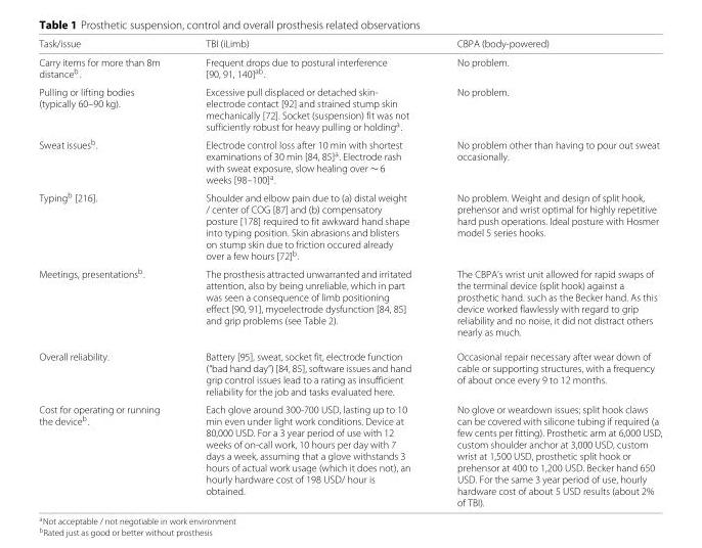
<table><thead><tr><td>Task/issue</td><td>TBI (iLimb)</td><td>CBPA (body-powered)</td></tr></thead><tbody><tr><td>Carry items for more than 8m distance<sup>b</sup>.</td><td>Frequent drops due to postural interference [90, 91, 140]<sup>ab</sup>.</td><td>No problem.</td></tr><tr><td>Pulling or lifting bodies (typically 60–90 kg).</td><td>Excessive pull displaced or detached skin- electrode contact [92] and strained stump skin mechanically [72]. Socket (suspension) fit was not sufficiently robust for heavy pulling or holding<sup>a</sup>.</td><td>No problem.</td></tr><tr><td>Sweat issues<sup>b</sup>.</td><td>Electrode control loss after 10 min with shortest examinations of 30 min [84, 85]<sup>a</sup>. Electrode rash with sweat exposure, slow healing over ∼ 6 weeks [98–100]<sup>a</sup>.</td><td>No problem other than having to pour out sweat occasionally.</td></tr><tr><td>Typing<sup>b</sup> [216].</td><td>Shoulder and elbow pain due to (a) distal weight / center of COG [87] and (b) compensatory posture [178] required to fit awkward hand shape into typing position. Skin abrasions and blisters on stump skin due to friction occured already over a few hours [72]<sup>b</sup>.</td><td>No problem. Weight and design of split hook, prehensor and wrist optimal for highly repetitive hard push operations. Ideal posture with Hosmer model 5 series hooks.</td></tr><tr><td>Meetings, presentations<sup>b</sup>.</td><td>The prosthesis attracted unwarranted and irritated attention, also by being unreliable, which in part was seen a consequence of limb positioning effect [90, 91], myoelectrode dysfunction [84, 85] and grip problems (see Table 2).</td><td>The CBPA’s wrist unit allowed for rapid swaps of the terminal device (split hook) against a prosthetic hand. such as the Becker hand. As this device worked flawlessly with regard to grip reliability and no noise, it did not distract others nearly as much.</td></tr><tr><td>Overall reliability.</td><td>Battery [95], sweat, socket fit, electrode function (“bad hand day”) [84, 85], software issues and hand grip control issues lead to a rating as insufficient reliability for the job and tasks evaluated here.</td><td>Occasional repair necessary after wear down of cable or supporting structures, with a frequency of about once every 9 to 12 months.</td></tr><tr><td>Cost for operating or running the device<sup>b</sup>.</td><td>Each glove around 300-700 USD, lasting up to 10 min even under light work conditions. Device at 80,000 USD. For a 3 year period of use with 12 weeks of on-call work, 10 hours per day with 7 days a week, assuming that a glove withstands 3 hours of actual work usage (which it does not), an hourly hardware cost of 198 USD/ hour is obtained.</td><td>No glove or weardown issues; split hook claws can be covered with silicone tubing if required (a few cents per fitting). Prosthetic arm at 6,000 USD, custom shoulder anchor at 3,000 USD, custom wrist at 1,500 USD, prosthetic split hook or prehensor at 400 to 1,200 USD. Becker hand 650 USD. For the same 3 year period of use, hourly hardware cost of about 5 USD results (about 2% of TBI).</td></tr></tbody></table>